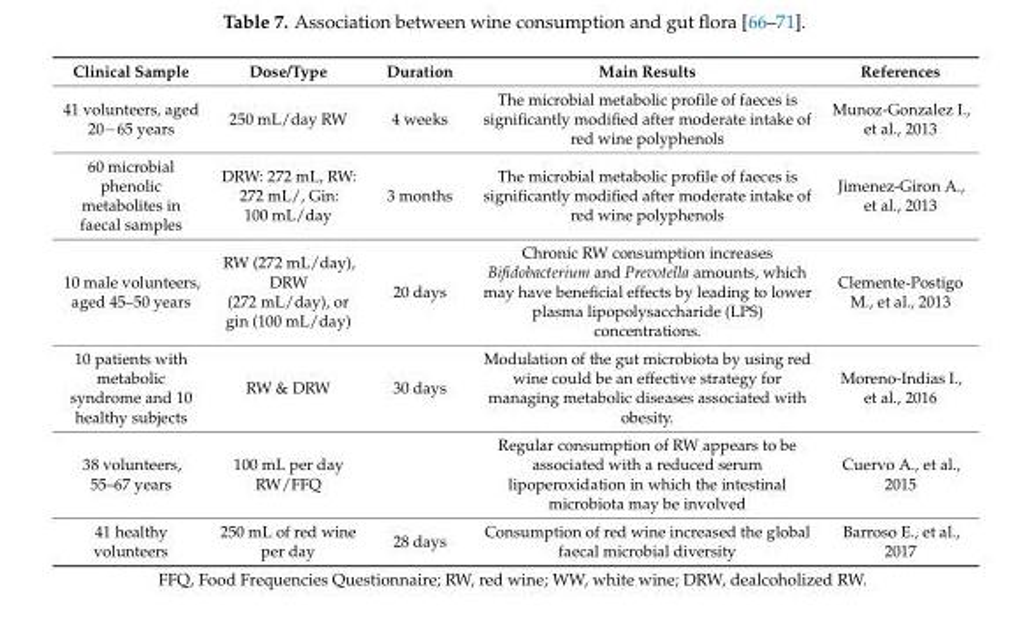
<table><thead><tr><td>Clinical Sample</td><td>Dose/Type</td><td>Duration</td><td>Main Results</td><td>References</td></tr></thead><tbody><tr><td>41 volunteers, aged 20−65 years</td><td>250 mL/day RW</td><td>4 weeks</td><td>The microbial metabolic profile of faeces is significantly modified after moderate intake of red wine polyphenols</td><td>Munoz-Gonzalez I., et al., 2013</td></tr><tr><td>60 microbial phenolic metabolites in faecal samples</td><td>DRW: 272 mL, RW: 272 mL/, Gin: 100 mL/day</td><td>3 months</td><td>The microbial metabolic profile of faeces is significantly modified after moderate intake of red wine polyphenols</td><td>Jimenez-Giron A., et al., 2013</td></tr><tr><td>10 male volunteers, aged 45–50 years</td><td>RW (272 mL/day), DRW (272 mL/day), or gin (100 mL/day)</td><td>20 days</td><td>Chronic RW consumption increases Bifidobacterium and Prevotella amounts, which may have beneficial effects by leading to lower plasma lipopolysaccharide (LPS) concentrations.</td><td>Clemente-Postigo M., et al., 2013</td></tr><tr><td>10 patients with metabolic syndrome and 10 healthy subjects</td><td>RW &amp; DRW</td><td>30 days</td><td>Modulation of the gut microbiota by using red wine could be an effective strategy for managing metabolic diseases associated with obesity.</td><td>Moreno-Indias I., et al., 2016</td></tr><tr><td>38 volunteers, 55–67 years</td><td>100 mL per day RW/FFQ</td><td></td><td>Regular consumption of RW appears to be associated with a reduced serum lipoperoxidation in which the intestinal microbiota may be involved</td><td>Cuervo A., et al., 2015</td></tr><tr><td>41 healthy volunteers</td><td>250 mL of red wine per day</td><td>28 days</td><td>Consumption of red wine increased the global faecal microbial diversity</td><td>Barroso E., et al., 2017</td></tr></tbody></table>